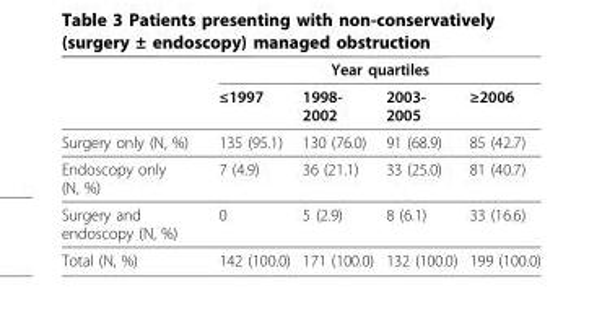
<table><thead><tr><td rowspan="2"></td><td colspan="4">Year quartiles</td></tr><tr><td>≤1997</td><td>1998- 2002</td><td>2003- 2005</td><td>≥2006</td></tr></thead><tbody><tr><td>Surgery only (N, %)</td><td>135 (95.1)</td><td>130 (76.0)</td><td>91 (68.9)</td><td>85 (42.7)</td></tr><tr><td>Endoscopy only (N, %)</td><td>7 (4.9)</td><td>36 (21.1)</td><td>33 (25.0)</td><td>81 (40.7)</td></tr><tr><td>Surgery and endoscopy (N, %)</td><td>0</td><td>5 (2.9)</td><td>8 (6.1)</td><td>33 (16.6)</td></tr><tr><td>Total (N, %)</td><td>142 (100.0)</td><td>171 (100.0)</td><td>132 (100.0)</td><td>199 (100.0)</td></tr></tbody></table>